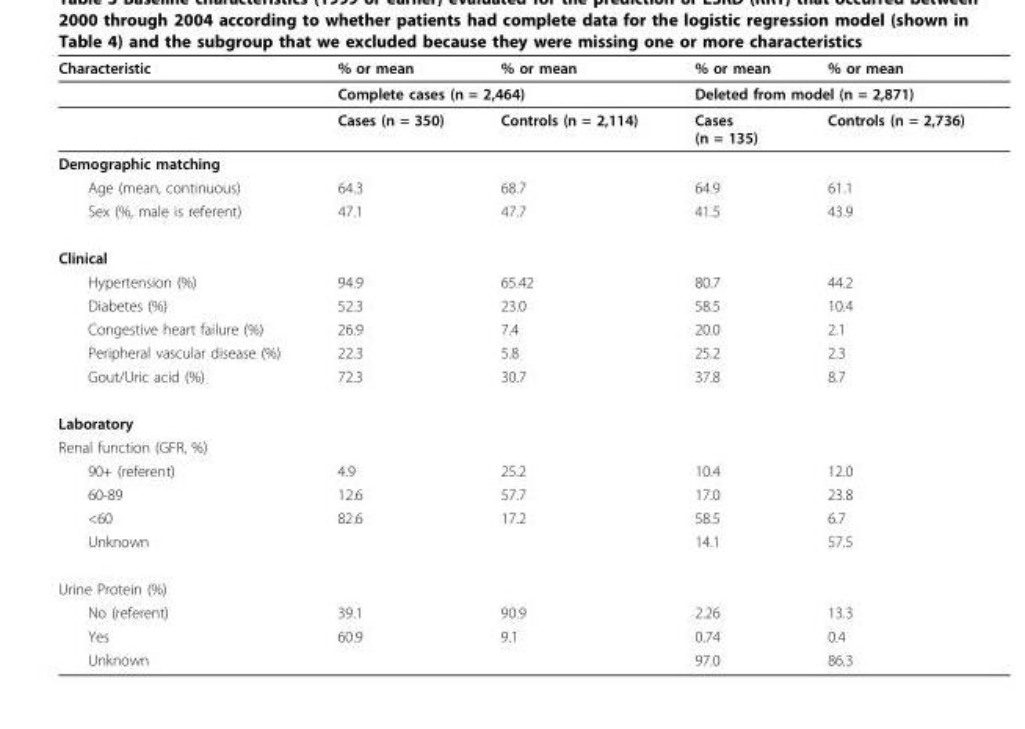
<table><thead><tr><td>Characteristic</td><td>% or mean</td><td>% or mean</td><td>% or mean</td><td>% or mean</td></tr></thead><tbody><tr><td></td><td colspan="2">Complete cases (n = 2,464)</td><td colspan="2">Deleted from model (n = 2,871)</td></tr><tr><td></td><td>Cases (n = 350)</td><td>Controls (n = 2,114)</td><td>Cases (n = 135)</td><td>Controls (n = 2,736)</td></tr><tr><td colspan="5">Demographic matching</td></tr><tr><td>Age (mean, continuous)</td><td>64.3</td><td>68.7</td><td>64.9</td><td>61.1</td></tr><tr><td>Sex (%, male is referent)</td><td>47.1</td><td>47.7</td><td>41.5</td><td>43.9</td></tr><tr><td colspan="5">Clinical</td></tr><tr><td>Hypertension (%)</td><td>94.9</td><td>65.42</td><td>80.7</td><td>44.2</td></tr><tr><td>Diabetes (%)</td><td>52.3</td><td>23.0</td><td>58.5</td><td>10.4</td></tr><tr><td>Congestive heart failure (%)</td><td>26.9</td><td>7.4</td><td>20.0</td><td>2.1</td></tr><tr><td>Peripheral vascular disease (%)</td><td>22.3</td><td>5.8</td><td>25.2</td><td>2.3</td></tr><tr><td>Gout/Uric acid (%)</td><td>72.3</td><td>30.7</td><td>37.8</td><td>8.7</td></tr><tr><td colspan="5">Laboratory</td></tr><tr><td colspan="5">Renal function (GFR, %)</td></tr><tr><td>90+ (referent)</td><td>4.9</td><td>25.2</td><td>10.4</td><td>12.0</td></tr><tr><td>60-89</td><td>12.6</td><td>57.7</td><td>17.0</td><td>23.8</td></tr><tr><td>&lt;60</td><td>82.6</td><td>17.2</td><td>58.5</td><td>6.7</td></tr><tr><td>Unknown</td><td></td><td></td><td>14.1</td><td>57.5</td></tr><tr><td colspan="5">Urine Protein (%)</td></tr><tr><td>No (referent)</td><td>39.1</td><td>90.9</td><td>2.26</td><td>13.3</td></tr><tr><td>Yes</td><td>60.9</td><td>9.1</td><td>0.74</td><td>0.4</td></tr><tr><td>Unknown</td><td></td><td></td><td>97.0</td><td>86.3</td></tr></tbody></table>